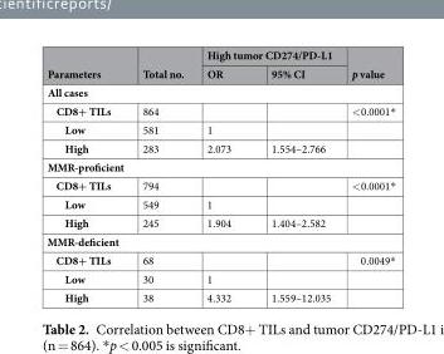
<table><thead><tr><td rowspan="2">Parameters</td><td rowspan="2">Total no.</td><td colspan="2">High tumor CD274/PD-L1</td><td rowspan="2">p value</td></tr><tr><td>OR</td><td>95% CI</td></tr></thead><tbody><tr><td colspan="5">All cases</td></tr><tr><td>CD8+ TILs</td><td>864</td><td></td><td></td><td>&lt;0.0001*</td></tr><tr><td>Low</td><td>581</td><td>1</td><td></td><td></td></tr><tr><td>High</td><td>283</td><td>2.073</td><td>1.554–2.766</td><td></td></tr><tr><td colspan="5">MMR-proficient</td></tr><tr><td>CD8+ TILs</td><td>794</td><td></td><td></td><td>&lt;0.0001*</td></tr><tr><td>Low</td><td>549</td><td>1</td><td></td><td></td></tr><tr><td>High</td><td>245</td><td>1.904</td><td>1.404–2.582</td><td></td></tr><tr><td colspan="5">MMR-deficient</td></tr><tr><td>CD8+ TILs</td><td>68</td><td></td><td></td><td>0.0049*</td></tr><tr><td>Low</td><td>30</td><td>1</td><td></td><td></td></tr><tr><td>High</td><td>38</td><td>4.332</td><td>1.559–12.035</td><td></td></tr></tbody></table>